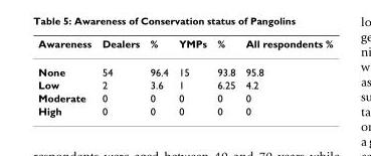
<table><thead><tr><td>Awareness</td><td>Dealers</td><td>%</td><td>YMPs</td><td>%</td><td>All respondents %</td></tr></thead><tbody><tr><td>None</td><td>54</td><td>96.4</td><td>15</td><td>93.8</td><td>95.8</td></tr><tr><td>Low</td><td>2</td><td>3.6</td><td>1</td><td>6.25</td><td>4.2</td></tr><tr><td>Moderate</td><td>0</td><td>0</td><td>0</td><td>0</td><td>0</td></tr><tr><td>High</td><td>0</td><td>0</td><td>0</td><td>0</td><td>0</td></tr></tbody></table>